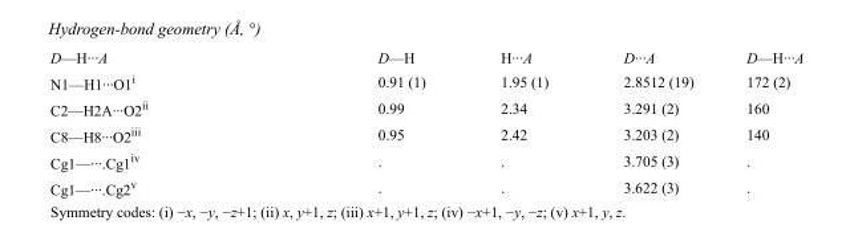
<table><tbody><tr><td>D—H···A</td><td>D—H</td><td>H···A</td><td>D···A</td><td>D—H···A</td></tr><tr><td>N1—H1···O1<sup>i</sup></td><td>0.91 (1)</td><td>1.95 (1)</td><td>2.8512 (19)</td><td>172 (2)</td></tr><tr><td>C2—H2A···O2<sup>ii</sup></td><td>0.99</td><td>2.34</td><td>3.291 (2)</td><td>160</td></tr><tr><td>C8—H8···O2<sup>iii</sup></td><td>0.95</td><td>2.42</td><td>3.203 (2)</td><td>140</td></tr><tr><td>Cg1—···.Cg1<sup>iv</sup></td><td>.</td><td>.</td><td>3.705 (3)</td><td>.</td></tr><tr><td>Cg1—···.Cg2<sup>v</sup></td><td>.</td><td>.</td><td>3.622 (3)</td><td>.</td></tr></tbody></table>